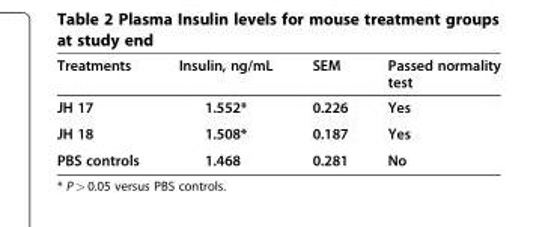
<table><thead><tr><td>Treatments</td><td>Insulin, ng/mL</td><td>SEM</td><td>Passed normality test</td></tr></thead><tbody><tr><td>JH 17</td><td>1.552*</td><td>0.226</td><td>Yes</td></tr><tr><td>JH 18</td><td>1.508*</td><td>0.187</td><td>Yes</td></tr><tr><td>PBS controls</td><td>1.468</td><td>0.281</td><td>No</td></tr></tbody></table>